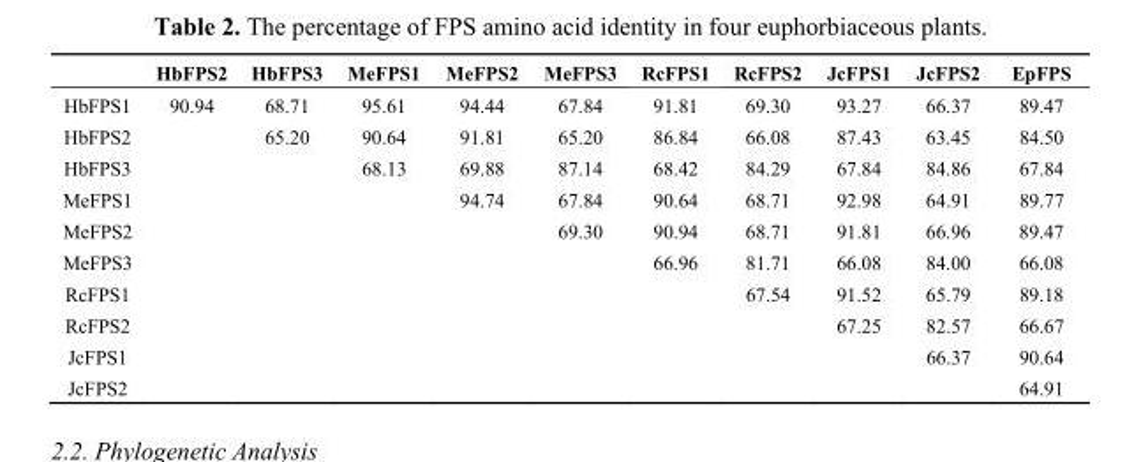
<table><thead><tr><td></td><td>HbFPS2</td><td>HbFPS3</td><td>MeFPS1</td><td>MeFPS2</td><td>MeFPS3</td><td>RcFPS1</td><td>RcFPS2</td><td>JcFPS1</td><td>JcFPS2</td><td>EpFPS</td></tr></thead><tbody><tr><td>HbFPS1</td><td>90.94</td><td>68.71</td><td>95.61</td><td>94.44</td><td>67.84</td><td>91.81</td><td>69.30</td><td>93.27</td><td>66.37</td><td>89.47</td></tr><tr><td>HbFPS2</td><td></td><td>65.20</td><td>90.64</td><td>91.81</td><td>65.20</td><td>86.84</td><td>66.08</td><td>87.43</td><td>63.45</td><td>84.50</td></tr><tr><td>HbFPS3</td><td></td><td></td><td>68.13</td><td>69.88</td><td>87.14</td><td>68.42</td><td>84.29</td><td>67.84</td><td>84.86</td><td>67.84</td></tr><tr><td>MeFPS1</td><td></td><td></td><td></td><td>94.74</td><td>67.84</td><td>90.64</td><td>68.71</td><td>92.98</td><td>64.91</td><td>89.77</td></tr><tr><td>MeFPS2</td><td></td><td></td><td></td><td></td><td>69.30</td><td>90.94</td><td>68.71</td><td>91.81</td><td>66.96</td><td>89.47</td></tr><tr><td>MeFPS3</td><td></td><td></td><td></td><td></td><td></td><td>66.96</td><td>81.71</td><td>66.08</td><td>84.00</td><td>66.08</td></tr><tr><td>RcFPS1</td><td></td><td></td><td></td><td></td><td></td><td></td><td>67.54</td><td>91.52</td><td>65.79</td><td>89.18</td></tr><tr><td>RcFPS2</td><td></td><td></td><td></td><td></td><td></td><td></td><td></td><td>67.25</td><td>82.57</td><td>66.67</td></tr><tr><td>JcFPS1</td><td></td><td></td><td></td><td></td><td></td><td></td><td></td><td></td><td>66.37</td><td>90.64</td></tr><tr><td>JcFPS2</td><td></td><td></td><td></td><td></td><td></td><td></td><td></td><td></td><td></td><td>64.91</td></tr></tbody></table>